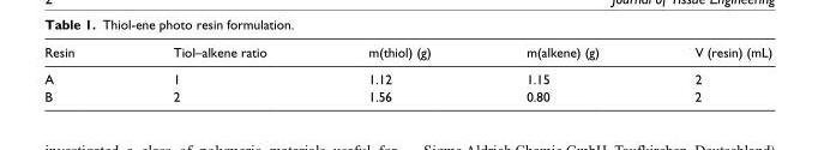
<table><thead><tr><td>Resin</td><td>Tiol–alkene ratio</td><td>m(thiol) (g)</td><td>m(alkene) (g)</td><td>V (resin) (mL)</td></tr></thead><tbody><tr><td>A</td><td>1</td><td>1.12</td><td>1.15</td><td>2</td></tr><tr><td>B</td><td>2</td><td>1.56</td><td>0.80</td><td>2</td></tr></tbody></table>